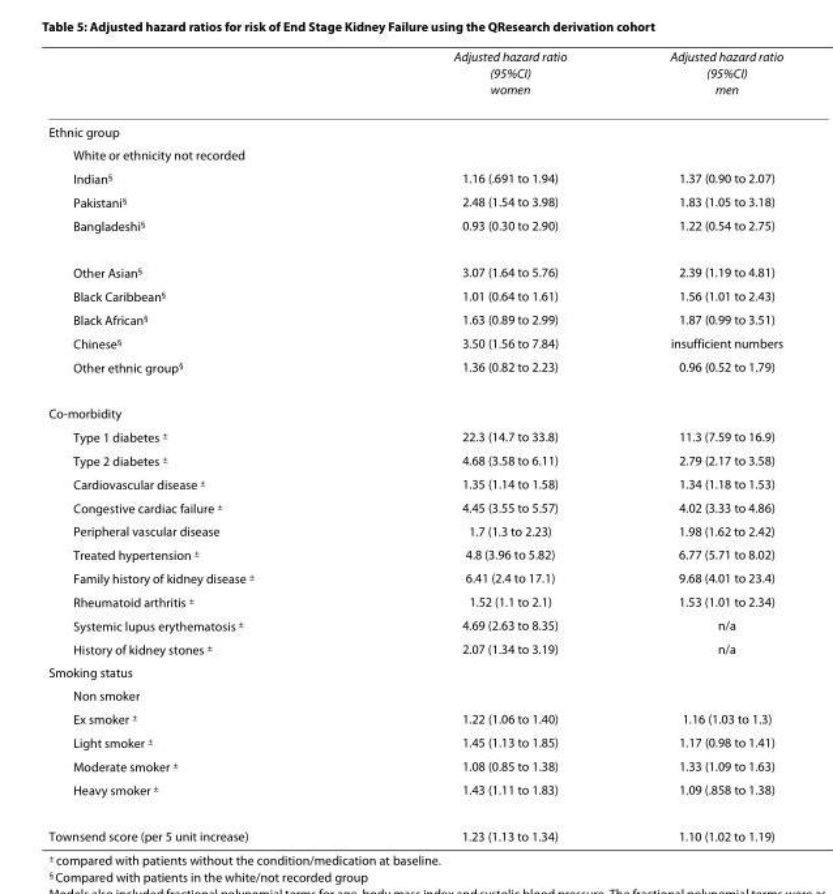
<table><thead><tr><td></td><td>Adjusted hazard ratio (95%CI) women</td><td>Adjusted hazard ratio (95%CI) men</td></tr></thead><tbody><tr><td colspan="3">Ethnic group</td></tr><tr><td colspan="3">White or ethnicity not recorded</td></tr><tr><td>Indian<sup>§</sup></td><td>1.16 (.691 to 1.94)</td><td>1.37 (0.90 to 2.07)</td></tr><tr><td>Pakistani<sup>§</sup></td><td>2.48 (1.54 to 3.98)</td><td>1.83 (1.05 to 3.18)</td></tr><tr><td>Bangladeshi<sup>§</sup></td><td>0.93 (0.30 to 2.90)</td><td>1.22 (0.54 to 2.75)</td></tr><tr><td>Other Asian<sup>§</sup></td><td>3.07 (1.64 to 5.76)</td><td>2.39 (1.19 to 4.81)</td></tr><tr><td>Black Caribbean<sup>§</sup></td><td>1.01 (0.64 to 1.61)</td><td>1.56 (1.01 to 2.43)</td></tr><tr><td>Black African<sup>§</sup></td><td>1.63 (0.89 to 2.99)</td><td>1.87 (0.99 to 3.51)</td></tr><tr><td>Chinese<sup>§</sup></td><td>3.50 (1.56 to 7.84)</td><td>insufficient numbers</td></tr><tr><td>Other ethnic group<sup>§</sup></td><td>1.36 (0.82 to 2.23)</td><td>0.96 (0.52 to 1.79)</td></tr><tr><td colspan="3">Co-morbidity</td></tr><tr><td>Type 1 diabetes <sup>±</sup></td><td>22.3 (14.7 to 33.8)</td><td>11.3 (7.59 to 16.9)</td></tr><tr><td>Type 2 diabetes <sup>±</sup></td><td>4.68 (3.58 to 6.11)</td><td>2.79 (2.17 to 3.58)</td></tr><tr><td>Cardiovascular disease <sup>±</sup></td><td>1.35 (1.14 to 1.58)</td><td>1.34 (1.18 to 1.53)</td></tr><tr><td>Congestive cardiac failure <sup>±</sup></td><td>4.45 (3.55 to 5.57)</td><td>4.02 (3.33 to 4.86)</td></tr><tr><td>Peripheral vascular disease</td><td>1.7 (1.3 to 2.23)</td><td>1.98 (1.62 to 2.42)</td></tr><tr><td>Treated hypertension <sup>±</sup></td><td>4.8 (3.96 to 5.82)</td><td>6.77 (5.71 to 8.02)</td></tr><tr><td>Family history of kidney disease <sup>±</sup></td><td>6.41 (2.4 to 17.1)</td><td>9.68 (4.01 to 23.4)</td></tr><tr><td>Rheumatoid arthritis <sup>±</sup></td><td>1.52 (1.1 to 2.1)</td><td>1.53 (1.01 to 2.34)</td></tr><tr><td>Systemic lupus erythematosis <sup>±</sup></td><td>4.69 (2.63 to 8.35)</td><td>n/a</td></tr><tr><td>History of kidney stones <sup>±</sup></td><td>2.07 (1.34 to 3.19)</td><td>n/a</td></tr><tr><td colspan="3">Smoking status</td></tr><tr><td colspan="3">Non smoker</td></tr><tr><td>Ex smoker <sup>±</sup></td><td>1.22 (1.06 to 1.40)</td><td>1.16 (1.03 to 1.3)</td></tr><tr><td>Light smoker <sup>±</sup></td><td>1.45 (1.13 to 1.85)</td><td>1.17 (0.98 to 1.41)</td></tr><tr><td>Moderate smoker <sup>±</sup></td><td>1.08 (0.85 to 1.38)</td><td>1.33 (1.09 to 1.63)</td></tr><tr><td>Heavy smoker <sup>±</sup></td><td>1.43 (1.11 to 1.83)</td><td>1.09 (.858 to 1.38)</td></tr><tr><td>Townsend score (per 5 unit increase)</td><td>1.23 (1.13 to 1.34)</td><td>1.10 (1.02 to 1.19)</td></tr></tbody></table>